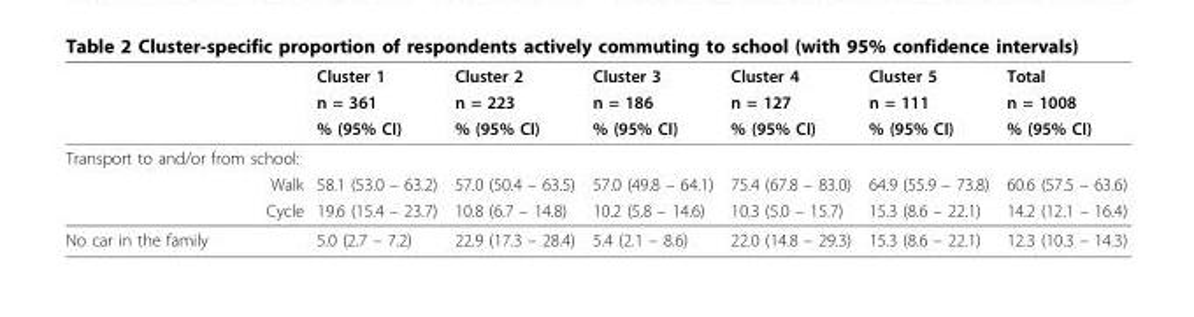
<table><thead><tr><td rowspan="3"></td><td rowspan="3">Cluster 1 n = 361 % (95% CI)</td><td rowspan="3">Cluster 2 n = 223 % (95% CI)</td><td rowspan="3">Cluster 3 n = 186 % (95% CI)</td><td rowspan="3">Cluster 4 n = 127 % (95% CI)</td><td rowspan="3">Cluster 5 n = 111 % (95% CI)</td><td rowspan="3">Total n = 1008 % (95% CI)</td></tr><tr></tr><tr></tr></thead><tbody><tr><td colspan="7">Transport to and/or from school:</td></tr><tr><td>Walk</td><td>58.1 (53.0 – 63.2)</td><td>57.0 (50.4 – 63.5)</td><td>57.0 (49.8 – 64.1)</td><td>75.4 (67.8 – 83.0)</td><td>64.9 (55.9 – 73.8)</td><td>60.6 (57.5 – 63.6)</td></tr><tr><td>Cycle</td><td>19.6 (15.4 – 23.7)</td><td>10.8 (6.7 – 14.8)</td><td>10.2 (5.8 – 14.6)</td><td>10.3 (5.0 – 15.7)</td><td>15.3 (8.6 – 22.1)</td><td>14.2 (12.1 – 16.4)</td></tr><tr><td>No car in the family</td><td>5.0 (2.7 – 7.2)</td><td>22.9 (17.3 – 28.4)</td><td>5.4 (2.1 – 8.6)</td><td>22.0 (14.8 – 29.3)</td><td>15.3 (8.6 – 22.1)</td><td>12.3 (10.3 – 14.3)</td></tr></tbody></table>